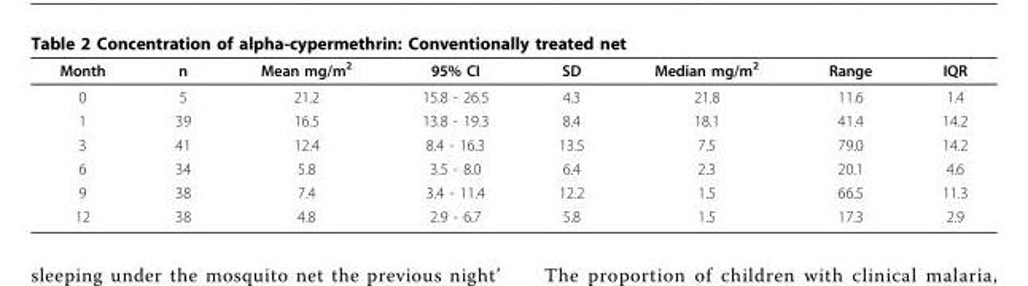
<table><thead><tr><td>Month</td><td>n</td><td>Mean mg/m<sup>2</sup></td><td>95% CI</td><td>SD</td><td>Median mg/m<sup>2</sup></td><td>Range</td><td>IQR</td></tr></thead><tbody><tr><td>0</td><td>5</td><td>21.2</td><td>15.8 - 26.5</td><td>4.3</td><td>21.8</td><td>11.6</td><td>1.4</td></tr><tr><td>1</td><td>39</td><td>16.5</td><td>13.8 - 19.3</td><td>8.4</td><td>18.1</td><td>41.4</td><td>14.2</td></tr><tr><td>3</td><td>41</td><td>12.4</td><td>8.4 - 16.3</td><td>13.5</td><td>7.5</td><td>79.0</td><td>14.2</td></tr><tr><td>6</td><td>34</td><td>5.8</td><td>3.5 - 8.0</td><td>6.4</td><td>2.3</td><td>20.1</td><td>4.6</td></tr><tr><td>9</td><td>38</td><td>7.4</td><td>3.4 - 11.4</td><td>12.2</td><td>1.5</td><td>66.5</td><td>11.3</td></tr><tr><td>12</td><td>38</td><td>4.8</td><td>2.9 - 6.7</td><td>5.8</td><td>1.5</td><td>17.3</td><td>2.9</td></tr></tbody></table>